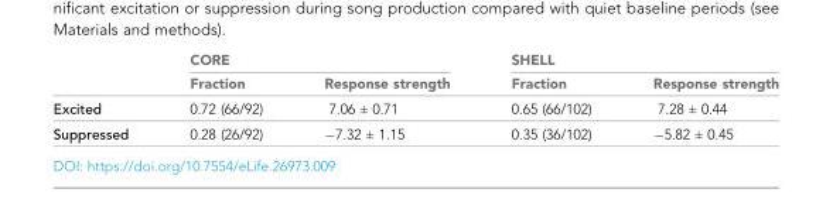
<table><thead><tr><td rowspan="2"></td><td colspan="2">CORE</td><td colspan="2">SHELL</td></tr><tr><td>Fraction</td><td>Response strength</td><td>Fraction</td><td>Response strength</td></tr></thead><tbody><tr><td>Excited</td><td>0.72 (66/92)</td><td>7.06 ± 0.71</td><td>0.65 (66/102)</td><td>7.28 ± 0.44</td></tr><tr><td>Suppressed</td><td>0.28 (26/92)</td><td>−7.32 ± 1.15</td><td>0.35 (36/102)</td><td>−5.82 ± 0.45</td></tr></tbody></table>